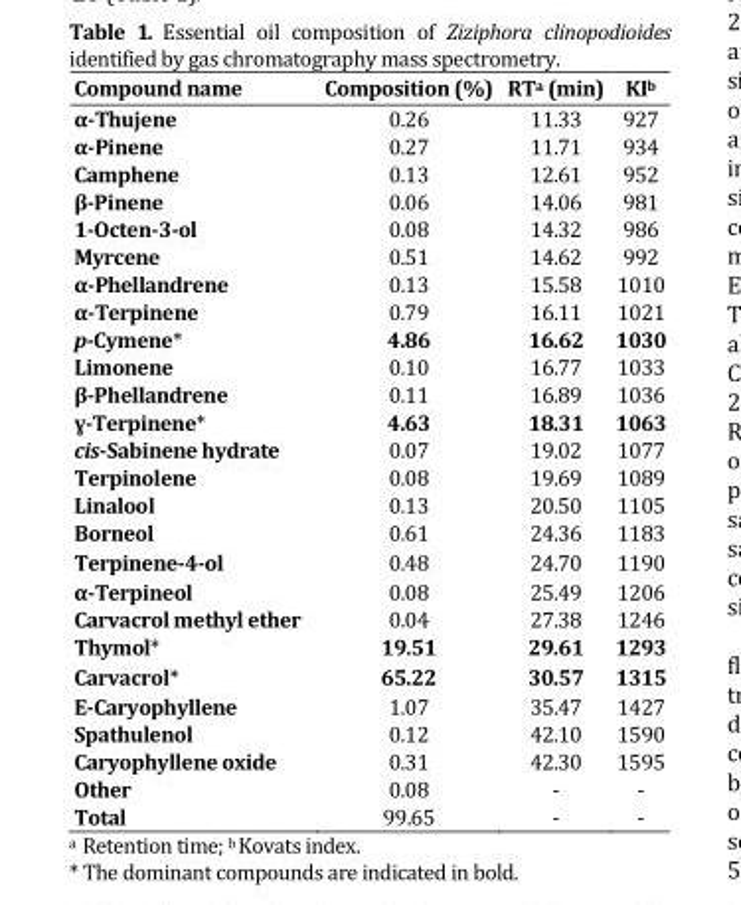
<table><thead><tr><td>Compound name</td><td>Composition (%)</td><td>RT<sup>a</sup> (min)</td><td>KI<sup>b</sup></td></tr></thead><tbody><tr><td>α-Thujene</td><td>0.26</td><td>11.33</td><td>927</td></tr><tr><td>α-Pinene</td><td>0.27</td><td>11.71</td><td>934</td></tr><tr><td>Camphene</td><td>0.13</td><td>12.61</td><td>952</td></tr><tr><td>β-Pinene</td><td>0.06</td><td>14.06</td><td>981</td></tr><tr><td>1-Octen-3-ol</td><td>0.08</td><td>14.32</td><td>986</td></tr><tr><td>Myrcene</td><td>0.51</td><td>14.62</td><td>992</td></tr><tr><td>α-Phellandrene</td><td>0.13</td><td>15.58</td><td>1010</td></tr><tr><td>α-Terpinene</td><td>0.79</td><td>16.11</td><td>1021</td></tr><tr><td>p-Cymene*</td><td>4.86</td><td>16.62</td><td>1030</td></tr><tr><td>Limonene</td><td>0.10</td><td>16.77</td><td>1033</td></tr><tr><td>β-Phellandrene</td><td>0.11</td><td>16.89</td><td>1036</td></tr><tr><td>ɣ-Terpinene*</td><td>4.63</td><td>18.31</td><td>1063</td></tr><tr><td>cis-Sabinene hydrate</td><td>0.07</td><td>19.02</td><td>1077</td></tr><tr><td>Terpinolene</td><td>0.08</td><td>19.69</td><td>1089</td></tr><tr><td>Linalool</td><td>0.13</td><td>20.50</td><td>1105</td></tr><tr><td>Borneol</td><td>0.61</td><td>24.36</td><td>1183</td></tr><tr><td>Terpinene-4-ol</td><td>0.48</td><td>24.70</td><td>1190</td></tr><tr><td>α-Terpineol</td><td>0.08</td><td>25.49</td><td>1206</td></tr><tr><td>Carvacrol methyl ether</td><td>0.04</td><td>27.38</td><td>1246</td></tr><tr><td>Thymol*</td><td>19.51</td><td>29.61</td><td>1293</td></tr><tr><td>Carvacrol*</td><td>65.22</td><td>30.57</td><td>1315</td></tr><tr><td>E-Caryophyllene</td><td>1.07</td><td>35.47</td><td>1427</td></tr><tr><td>Spathulenol</td><td>0.12</td><td>42.10</td><td>1590</td></tr><tr><td>Caryophyllene oxide</td><td>0.31</td><td>42.30</td><td>1595</td></tr><tr><td>Other</td><td>0.08</td><td>-</td><td>-</td></tr><tr><td>Total</td><td>99.65</td><td>-</td><td>-</td></tr></tbody></table>